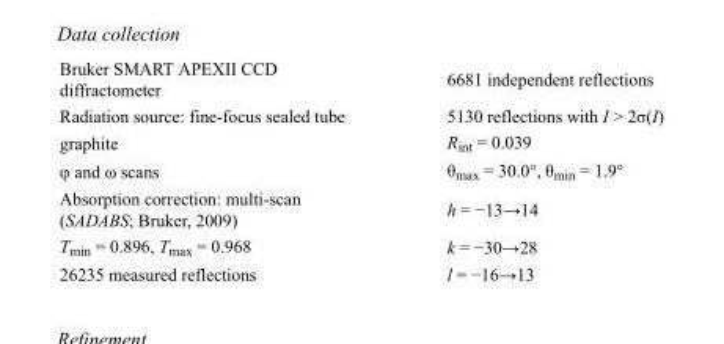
<table><tbody><tr><td>Bruker SMART APEXII CCD diffractometer</td><td>6681 independent reflections</td></tr><tr><td>Radiation source: fine-focus sealed tube</td><td>5130 reflections with I &gt; 2σ(I)</td></tr><tr><td>graphite</td><td>R<sub>int</sub> = 0.039</td></tr><tr><td>φ and ω scans</td><td>θ<sub>max</sub> = 30.0°, θ<sub>min</sub> = 1.9°</td></tr><tr><td>Absorption correction: multi-scan (SADABS; Bruker, 2009)</td><td>h = −13→14</td></tr><tr><td>T<sub>min</sub> = 0.896, T<sub>max</sub> = 0.968</td><td>k = −30→28</td></tr><tr><td>26235 measured reflections</td><td>l = −16→13</td></tr></tbody></table>